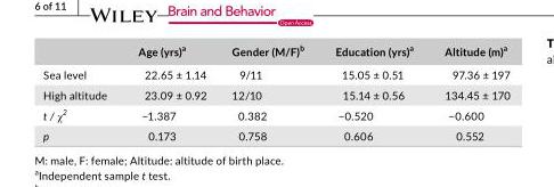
<table><thead><tr><td></td><td>Age (yrs)<sup>a</sup></td><td>Gender (M/F)<sup>b</sup></td><td>Education (yrs)<sup>a</sup></td><td>Altitude (m)<sup>a</sup></td></tr></thead><tbody><tr><td>Sea level</td><td>22.65 ± 1.14</td><td>9/11</td><td>15.05 ± 0.51</td><td>97.36 ± 197</td></tr><tr><td>High altitude</td><td>23.09 ± 0.92</td><td>12/10</td><td>15.14 ± 0.56</td><td>134.45 ± 170</td></tr><tr><td>t / χ<sup>2</sup></td><td>−1.387</td><td>0.382</td><td>−0.520</td><td>−0.600</td></tr><tr><td>p</td><td>0.173</td><td>0.758</td><td>0.606</td><td>0.552</td></tr></tbody></table>